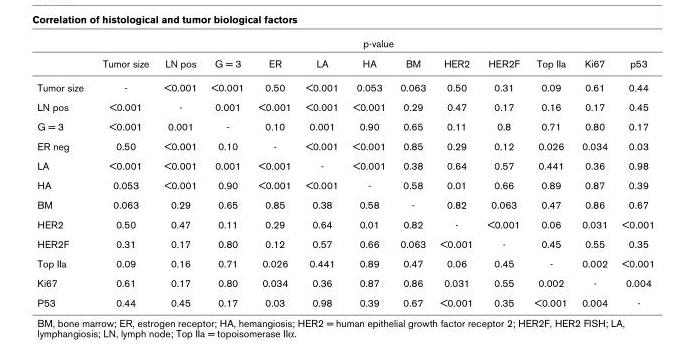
<table><thead><tr><td rowspan="2"></td><td colspan="12">p-value</td></tr><tr><td>Tumor size</td><td>LN pos</td><td>G = 3</td><td>ER</td><td>LA</td><td>HA</td><td>BM</td><td>HER2</td><td>HER2F</td><td>Top IIa</td><td>Ki67</td><td>p53</td></tr></thead><tbody><tr><td>Tumor size</td><td>-</td><td>&lt;0.001</td><td>&lt;0.001</td><td>0.50</td><td>&lt;0.001</td><td>0.053</td><td>0.063</td><td>0.50</td><td>0.31</td><td>0.09</td><td>0.61</td><td>0.44</td></tr><tr><td>LN pos</td><td>&lt;0.001</td><td>-</td><td>0.001</td><td>&lt;0.001</td><td>&lt;0.001</td><td>&lt;0.001</td><td>0.29</td><td>0.47</td><td>0.17</td><td>0.16</td><td>0.17</td><td>0.45</td></tr><tr><td>G = 3</td><td>&lt;0.001</td><td>0.001</td><td>-</td><td>0.10</td><td>0.001</td><td>0.90</td><td>0.65</td><td>0.11</td><td>0.8</td><td>0.71</td><td>0.80</td><td>0.17</td></tr><tr><td>ER neg</td><td>0.50</td><td>&lt;0.001</td><td>0.10</td><td>-</td><td>&lt;0.001</td><td>&lt;0.001</td><td>0.85</td><td>0.29</td><td>0.12</td><td>0.026</td><td>0.034</td><td>0.03</td></tr><tr><td>LA</td><td>&lt;0.001</td><td>&lt;0.001</td><td>0.001</td><td>&lt;0.001</td><td>-</td><td>&lt;0.001</td><td>0.38</td><td>0.64</td><td>0.57</td><td>0.441</td><td>0.36</td><td>0.98</td></tr><tr><td>HA</td><td>0.053</td><td>&lt;0.001</td><td>0.90</td><td>&lt;0.001</td><td>&lt;0.001</td><td>-</td><td>0.58</td><td>0.01</td><td>0.66</td><td>0.89</td><td>0.87</td><td>0.39</td></tr><tr><td>BM</td><td>0.063</td><td>0.29</td><td>0.65</td><td>0.85</td><td>0.38</td><td>0.58</td><td>-</td><td>0.82</td><td>0.063</td><td>0.47</td><td>0.86</td><td>0.67</td></tr><tr><td>HER2</td><td>0.50</td><td>0.47</td><td>0.11</td><td>0.29</td><td>0.64</td><td>0.01</td><td>0.82</td><td>-</td><td>&lt;0.001</td><td>0.06</td><td>0.031</td><td>&lt;0.001</td></tr><tr><td>HER2F</td><td>0.31</td><td>0.17</td><td>0.80</td><td>0.12</td><td>0.57</td><td>0.66</td><td>0.063</td><td>&lt;0.001</td><td>-</td><td>0.45</td><td>0.55</td><td>0.35</td></tr><tr><td>Top IIa</td><td>0.09</td><td>0.16</td><td>0.71</td><td>0.026</td><td>0.441</td><td>0.89</td><td>0.47</td><td>0.06</td><td>0.45</td><td>-</td><td>0.002</td><td>&lt;0.001</td></tr><tr><td>Ki67</td><td>0.61</td><td>0.17</td><td>0.80</td><td>0.034</td><td>0.36</td><td>0.87</td><td>0.86</td><td>0.031</td><td>0.55</td><td>0.002</td><td>-</td><td>0.004</td></tr><tr><td>P53</td><td>0.44</td><td>0.45</td><td>0.17</td><td>0.03</td><td>0.98</td><td>0.39</td><td>0.67</td><td>&lt;0.001</td><td>0.35</td><td>&lt;0.001</td><td>0.004</td><td>-</td></tr></tbody></table>